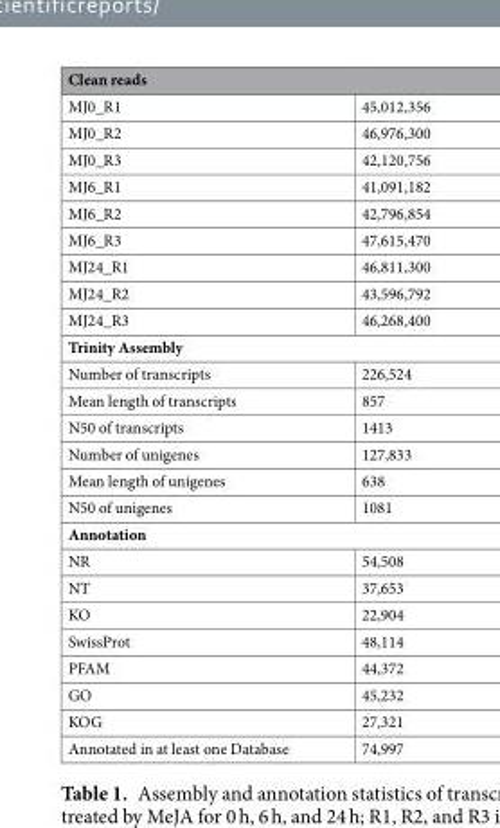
<table><thead><tr><td colspan="2">Clean reads</td></tr><tr><td>MJ0_R1</td><td>45,012,356</td></tr></thead><tbody><tr><td>MJ0_R2</td><td>46,976,300</td></tr><tr><td>MJ0_R3</td><td>42,120,756</td></tr><tr><td>MJ6_R1</td><td>41,091,182</td></tr><tr><td>MJ6_R2</td><td>42,796,854</td></tr><tr><td>MJ6_R3</td><td>47,615,470</td></tr><tr><td>MJ24_R1</td><td>46,811,300</td></tr><tr><td>MJ24_R2</td><td>43,596,792</td></tr><tr><td>MJ24_R3</td><td>46,268,400</td></tr><tr><td colspan="2">Trinity Assembly</td></tr><tr><td>Number of transcripts</td><td>226,524</td></tr><tr><td>Mean length of transcripts</td><td>857</td></tr><tr><td>N50 of transcripts</td><td>1413</td></tr><tr><td>Number of unigenes</td><td>127,833</td></tr><tr><td>Mean length of unigenes</td><td>638</td></tr><tr><td>N50 of unigenes</td><td>1081</td></tr><tr><td colspan="2">Annotation</td></tr><tr><td>NR</td><td>54,508</td></tr><tr><td>NT</td><td>37,653</td></tr><tr><td>KO</td><td>22,904</td></tr><tr><td>SwissProt</td><td>48,114</td></tr><tr><td>PFAM</td><td>44,372</td></tr><tr><td>GO</td><td>45,232</td></tr><tr><td>KOG</td><td>27,321</td></tr><tr><td>Annotated in at least one Database</td><td>74,997</td></tr></tbody></table>